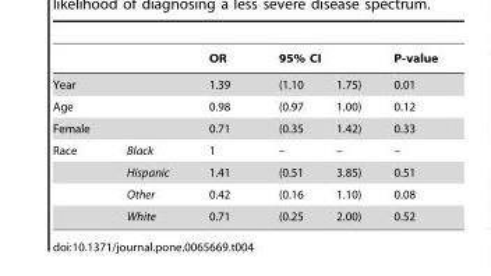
<table><thead><tr><td rowspan="2">Year</td><td rowspan="2"></td><td rowspan="2">OR 1.39</td><td colspan="2">95% CI</td><td rowspan="2">P-value 0.01</td></tr><tr><td>(1.10</td><td>1.75)</td></tr></thead><tbody><tr><td>Age</td><td></td><td>0.98</td><td>(0.97</td><td>1.00)</td><td>0.12</td></tr><tr><td>Female</td><td></td><td>0.71</td><td>(0.35</td><td>1.42)</td><td>0.33</td></tr><tr><td rowspan="4">Race</td><td>Black</td><td>1</td><td>–</td><td>–</td><td>–</td></tr><tr><td>Hispanic</td><td>1.41</td><td>(0.51</td><td>3.85)</td><td>0.51</td></tr><tr><td>Other</td><td>0.42</td><td>(0.16</td><td>1.10)</td><td>0.08</td></tr><tr><td>White</td><td>0.71</td><td>(0.25</td><td>2.00)</td><td>0.52</td></tr></tbody></table>